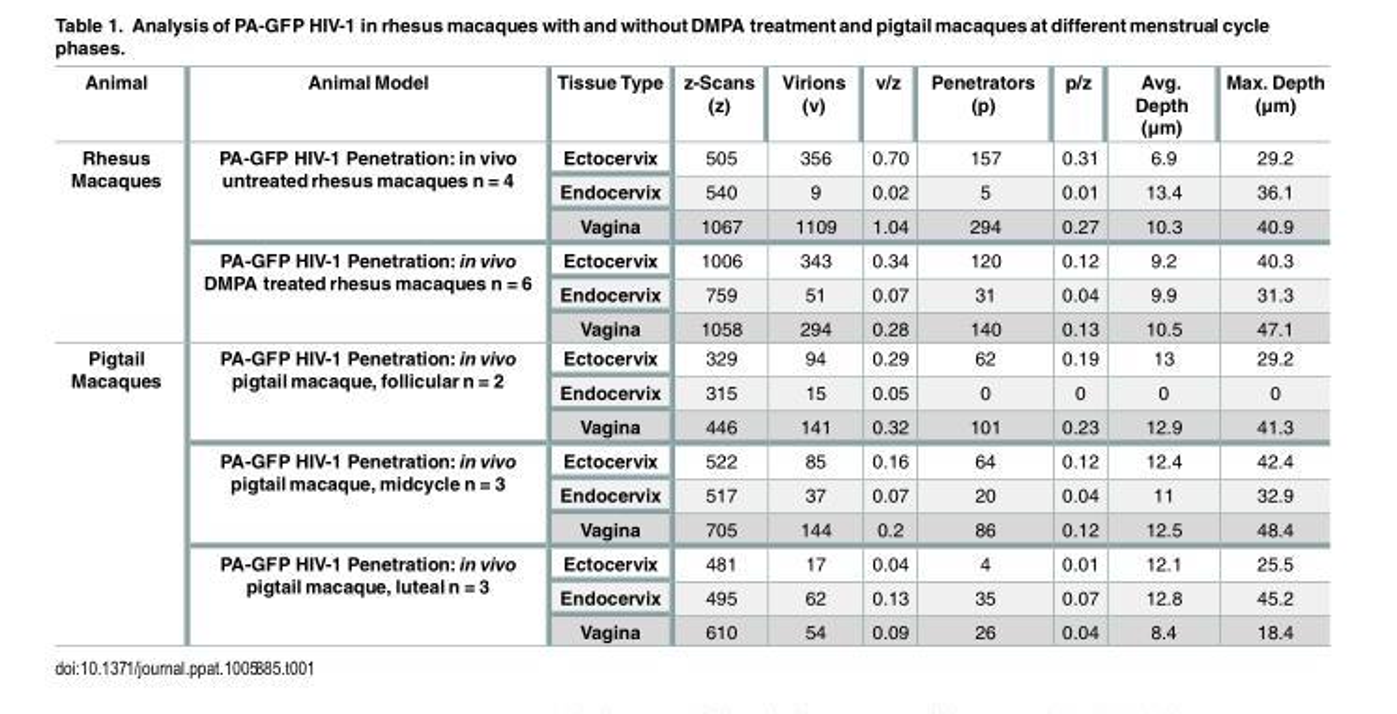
<table><thead><tr><td>Animal</td><td>Animal Model</td><td>Tissue Type</td><td>z-Scans (z)</td><td>Virions (v)</td><td>v/z</td><td>Penetrators (p)</td><td>p/z</td><td>Avg. Depth (μm)</td><td>Max. Depth (μm)</td></tr></thead><tbody><tr><td rowspan="6">Rhesus Macaques</td><td rowspan="3">PA-GFP HIV-1 Penetration: in vivo untreated rhesus macaques n = 4</td><td>Ectocervix</td><td>505</td><td>356</td><td>0.70</td><td>157</td><td>0.31</td><td>6.9</td><td>29.2</td></tr><tr><td>Endocervix</td><td>540</td><td>9</td><td>0.02</td><td>5</td><td>0.01</td><td>13.4</td><td>36.1</td></tr><tr><td>Vagina</td><td>1067</td><td>1109</td><td>1.04</td><td>294</td><td>0.27</td><td>10.3</td><td>40.9</td></tr><tr><td rowspan="3">PA-GFP HIV-1 Penetration: in vivo DMPA treated rhesus macaques n = 6</td><td>Ectocervix</td><td>1006</td><td>343</td><td>0.34</td><td>120</td><td>0.12</td><td>9.2</td><td>40.3</td></tr><tr><td>Endocervix</td><td>759</td><td>51</td><td>0.07</td><td>31</td><td>0.04</td><td>9.9</td><td>31.3</td></tr><tr><td>Vagina</td><td>1058</td><td>294</td><td>0.28</td><td>140</td><td>0.13</td><td>10.5</td><td>47.1</td></tr><tr><td rowspan="9">Pigtail Macaques</td><td rowspan="3">PA-GFP HIV-1 Penetration: in vivo pigtail macaque, follicular n = 2</td><td>Ectocervix</td><td>329</td><td>94</td><td>0.29</td><td>62</td><td>0.19</td><td>13</td><td>29.2</td></tr><tr><td>Endocervix</td><td>315</td><td>15</td><td>0.05</td><td>0</td><td>0</td><td>0</td><td>0</td></tr><tr><td>Vagina</td><td>446</td><td>141</td><td>0.32</td><td>101</td><td>0.23</td><td>12.9</td><td>41.3</td></tr><tr><td rowspan="3">PA-GFP HIV-1 Penetration: in vivo pigtail macaque, midcycle n = 3</td><td>Ectocervix</td><td>522</td><td>85</td><td>0.16</td><td>64</td><td>0.12</td><td>12.4</td><td>42.4</td></tr><tr><td>Endocervix</td><td>517</td><td>37</td><td>0.07</td><td>20</td><td>0.04</td><td>11</td><td>32.9</td></tr><tr><td>Vagina</td><td>705</td><td>144</td><td>0.2</td><td>86</td><td>0.12</td><td>12.5</td><td>48.4</td></tr><tr><td rowspan="3">PA-GFP HIV-1 Penetration: in vivo pigtail macaque, luteal n = 3</td><td>Ectocervix</td><td>481</td><td>17</td><td>0.04</td><td>4</td><td>0.01</td><td>12.1</td><td>25.5</td></tr><tr><td>Endocervix</td><td>495</td><td>62</td><td>0.13</td><td>35</td><td>0.07</td><td>12.8</td><td>45.2</td></tr><tr><td>Vagina</td><td>610</td><td>54</td><td>0.09</td><td>26</td><td>0.04</td><td>8.4</td><td>18.4</td></tr></tbody></table>